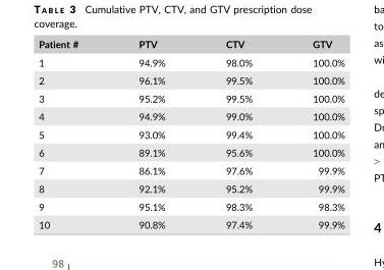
<table><thead><tr><td>Patient #</td><td>PTV</td><td>CTV</td><td>GTV</td></tr></thead><tbody><tr><td>1</td><td>94.9%</td><td>98.0%</td><td>100.0%</td></tr><tr><td>2</td><td>96.1%</td><td>99.5%</td><td>100.0%</td></tr><tr><td>3</td><td>95.2%</td><td>99.5%</td><td>100.0%</td></tr><tr><td>4</td><td>94.9%</td><td>99.0%</td><td>100.0%</td></tr><tr><td>5</td><td>93.0%</td><td>99.4%</td><td>100.0%</td></tr><tr><td>6</td><td>89.1%</td><td>95.6%</td><td>100.0%</td></tr><tr><td>7</td><td>86.1%</td><td>97.6%</td><td>99.9%</td></tr><tr><td>8</td><td>92.1%</td><td>95.2%</td><td>99.9%</td></tr><tr><td>9</td><td>95.1%</td><td>98.3%</td><td>98.3%</td></tr><tr><td>10</td><td>90.8%</td><td>97.4%</td><td>99.9%</td></tr></tbody></table>